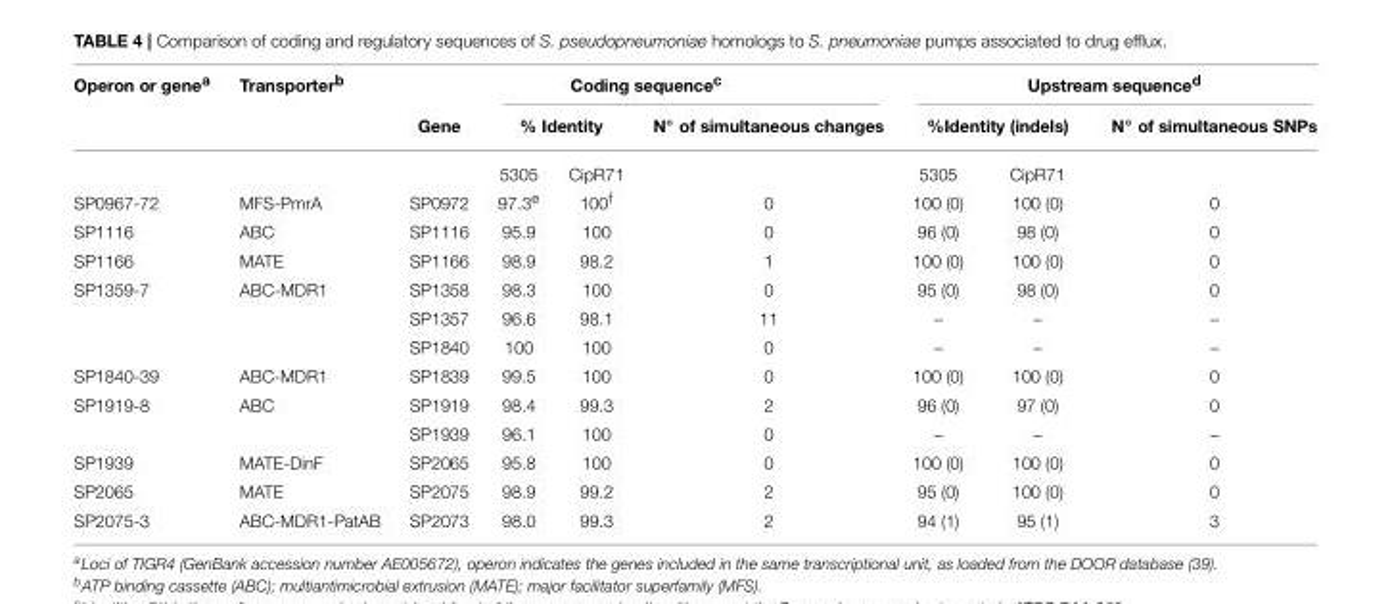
<table><thead><tr><td rowspan="3">Operon or gene<sup>a</sup></td><td rowspan="3">Transporter<sup>b</sup></td><td colspan="4">Coding sequence<sup>c</sup></td><td colspan="3">Upstream sequence<sup>d</sup></td></tr><tr><td rowspan="2">Gene</td><td colspan="2">% Identity</td><td rowspan="2">N◦ of simultaneous changes</td><td colspan="2">%Identity (indels)</td><td rowspan="2">N◦ of simultaneous SNPs</td></tr><tr><td>5305</td><td>CipR71</td><td>5305</td><td>CipR71</td></tr></thead><tbody><tr><td>SP0967-72</td><td>MFS-PmrA</td><td>SP0972</td><td>97.3<sup>e</sup></td><td>100<sup>f</sup></td><td>0</td><td>100 (0)</td><td>100 (0)</td><td>0</td></tr><tr><td>SP1116</td><td>ABC</td><td>SP1116</td><td>95.9</td><td>100</td><td>0</td><td>96 (0)</td><td>98 (0)</td><td>0</td></tr><tr><td>SP1166</td><td>MATE</td><td>SP1166</td><td>98.9</td><td>98.2</td><td>1</td><td>100 (0)</td><td>100 (0)</td><td>0</td></tr><tr><td rowspan="3">SP1359-7</td><td>ABC-MDR1</td><td>SP1358</td><td>98.3</td><td>100</td><td>0</td><td>95 (0)</td><td>98 (0)</td><td>0</td></tr><tr><td></td><td>SP1357</td><td>96.6</td><td>98.1</td><td>11</td><td>–</td><td>–</td><td>–</td></tr><tr><td></td><td>SP1840</td><td>100</td><td>100</td><td>0</td><td>–</td><td>–</td><td>–</td></tr><tr><td>SP1840-39</td><td>ABC-MDR1</td><td>SP1839</td><td>99.5</td><td>100</td><td>0</td><td>100 (0)</td><td>100 (0)</td><td>0</td></tr><tr><td rowspan="2">SP1919-8</td><td>ABC</td><td>SP1919</td><td>98.4</td><td>99.3</td><td>2</td><td>96 (0)</td><td>97 (0)</td><td>0</td></tr><tr><td></td><td>SP1939</td><td>96.1</td><td>100</td><td>0</td><td>–</td><td>–</td><td>–</td></tr><tr><td>SP1939</td><td>MATE-DinF</td><td>SP2065</td><td>95.8</td><td>100</td><td>0</td><td>100 (0)</td><td>100 (0)</td><td>0</td></tr><tr><td>SP2065</td><td>MATE</td><td>SP2075</td><td>98.9</td><td>99.2</td><td>2</td><td>95 (0)</td><td>100 (0)</td><td>0</td></tr><tr><td>SP2075-3</td><td>ABC-MDR1-PatAB</td><td>SP2073</td><td>98.0</td><td>99.3</td><td>2</td><td>94 (1)</td><td>95 (1)</td><td>3</td></tr></tbody></table>